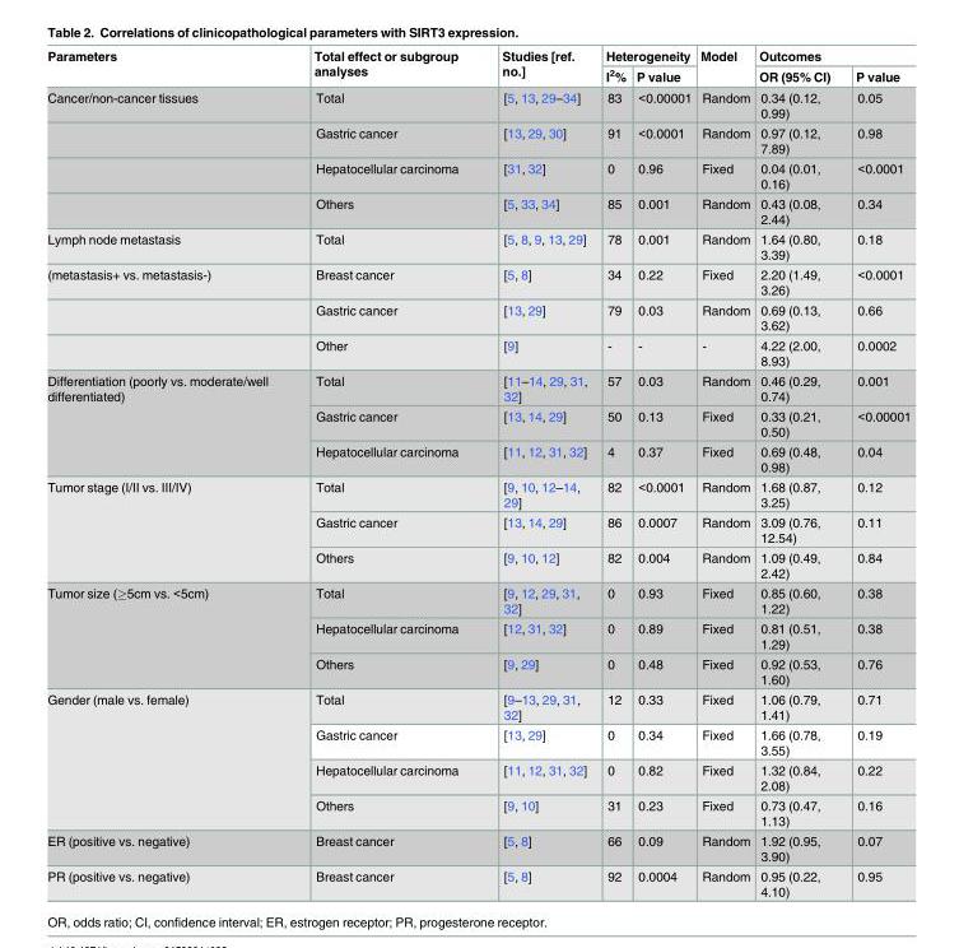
<table><thead><tr><td rowspan="2">Parameters</td><td rowspan="2">Total effect or subgroup analyses</td><td rowspan="2">Studies [ref. no.]</td><td colspan="2">Heterogeneity</td><td rowspan="2">Model</td><td colspan="2">Outcomes</td></tr><tr><td>I<sup>2</sup>%</td><td>P value</td><td>OR (95% CI)</td><td>P value</td></tr></thead><tbody><tr><td rowspan="4">Cancer/non-cancer tissues</td><td>Total</td><td>[5, 13, 29–34]</td><td>83</td><td>&lt;0.00001</td><td>Random</td><td>0.34 (0.12, 0.99)</td><td>0.05</td></tr><tr><td>Gastric cancer</td><td>[13, 29, 30]</td><td>91</td><td>&lt;0.0001</td><td>Random</td><td>0.97 (0.12, 7.89)</td><td>0.98</td></tr><tr><td>Hepatocellular carcinoma</td><td>[31, 32]</td><td>0</td><td>0.96</td><td>Fixed</td><td>0.04 (0.01, 0.16)</td><td>&lt;0.0001</td></tr><tr><td>Others</td><td>[5, 33, 34]</td><td>85</td><td>0.001</td><td>Random</td><td>0.43 (0.08, 2.44)</td><td>0.34</td></tr><tr><td>Lymph node metastasis</td><td>Total</td><td>[5, 8, 9, 13, 29]</td><td>78</td><td>0.001</td><td>Random</td><td>1.64 (0.80, 3.39)</td><td>0.18</td></tr><tr><td rowspan="3">(metastasis+ vs. metastasis-)</td><td>Breast cancer</td><td>[5, 8]</td><td>34</td><td>0.22</td><td>Fixed</td><td>2.20 (1.49, 3.26)</td><td>&lt;0.0001</td></tr><tr><td>Gastric cancer</td><td>[13, 29]</td><td>79</td><td>0.03</td><td>Random</td><td>0.69 (0.13, 3.62)</td><td>0.66</td></tr><tr><td>Other</td><td>[9]</td><td>-</td><td>-</td><td>-</td><td>4.22 (2.00, 8.93)</td><td>0.0002</td></tr><tr><td rowspan="3">Differentiation (poorly vs. moderate/well differentiated)</td><td>Total</td><td>[11–14, 29, 31, 32]</td><td>57</td><td>0.03</td><td>Random</td><td>0.46 (0.29, 0.74)</td><td>0.001</td></tr><tr><td>Gastric cancer</td><td>[13, 14, 29]</td><td>50</td><td>0.13</td><td>Fixed</td><td>0.33 (0.21, 0.50)</td><td>&lt;0.00001</td></tr><tr><td>Hepatocellular carcinoma</td><td>[11, 12, 31, 32]</td><td>4</td><td>0.37</td><td>Fixed</td><td>0.69 (0.48, 0.98)</td><td>0.04</td></tr><tr><td rowspan="3">Tumor stage (I/II vs. III/IV)</td><td>Total</td><td>[9, 10, 12–14, 29]</td><td>82</td><td>&lt;0.0001</td><td>Random</td><td>1.68 (0.87, 3.25)</td><td>0.12</td></tr><tr><td>Gastric cancer</td><td>[13, 14, 29]</td><td>86</td><td>0.0007</td><td>Random</td><td>3.09 (0.76, 12.54)</td><td>0.11</td></tr><tr><td>Others</td><td>[9, 10, 12]</td><td>82</td><td>0.004</td><td>Random</td><td>1.09 (0.49, 2.42)</td><td>0.84</td></tr><tr><td rowspan="3">Tumor size (≥5cm vs. &lt;5cm)</td><td>Total</td><td>[9, 12, 29, 31, 32]</td><td>0</td><td>0.93</td><td>Fixed</td><td>0.85 (0.60, 1.22)</td><td>0.38</td></tr><tr><td>Hepatocellular carcinoma</td><td>[12, 31, 32]</td><td>0</td><td>0.89</td><td>Fixed</td><td>0.81 (0.51, 1.29)</td><td>0.38</td></tr><tr><td>Others</td><td>[9, 29]</td><td>0</td><td>0.48</td><td>Fixed</td><td>0.92 (0.53, 1.60)</td><td>0.76</td></tr><tr><td rowspan="4">Gender (male vs. female)</td><td>Total</td><td>[9–13, 29, 31, 32]</td><td>12</td><td>0.33</td><td>Fixed</td><td>1.06 (0.79, 1.41)</td><td>0.71</td></tr><tr><td>Gastric cancer</td><td>[13, 29]</td><td>0</td><td>0.34</td><td>Fixed</td><td>1.66 (0.78, 3.55)</td><td>0.19</td></tr><tr><td>Hepatocellular carcinoma</td><td>[11, 12, 31, 32]</td><td>0</td><td>0.82</td><td>Fixed</td><td>1.32 (0.84, 2.08)</td><td>0.22</td></tr><tr><td>Others</td><td>[9, 10]</td><td>31</td><td>0.23</td><td>Fixed</td><td>0.73 (0.47, 1.13)</td><td>0.16</td></tr><tr><td>ER (positive vs. negative)</td><td>Breast cancer</td><td>[5, 8]</td><td>66</td><td>0.09</td><td>Random</td><td>1.92 (0.95, 3.90)</td><td>0.07</td></tr><tr><td>PR (positive vs. negative)</td><td>Breast cancer</td><td>[5, 8]</td><td>92</td><td>0.0004</td><td>Random</td><td>0.95 (0.22, 4.10)</td><td>0.95</td></tr></tbody></table>